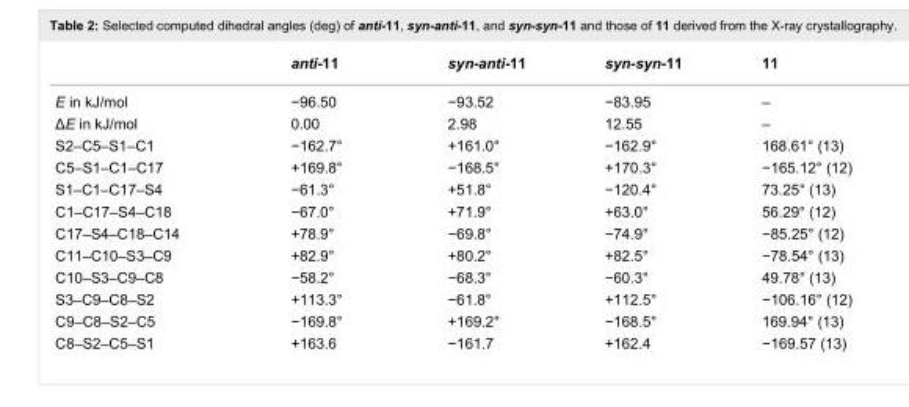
<table><thead><tr><td></td><td>anti-11</td><td>syn-anti-11</td><td>syn-syn-11</td><td>11</td></tr></thead><tbody><tr><td>E in kJ/mol</td><td>−96.50</td><td>−93.52</td><td>−83.95</td><td>–</td></tr><tr><td>ΔE in kJ/mol</td><td>0.00</td><td>2.98</td><td>12.55</td><td>–</td></tr><tr><td>S2–C5–S1–C1</td><td>−162.7°</td><td>+161.0°</td><td>−162.9°</td><td>168.61° (13)</td></tr><tr><td>C5–S1–C1–C17</td><td>+169.8°</td><td>−168.5°</td><td>+170.3°</td><td>−165.12° (12)</td></tr><tr><td>S1–C1–C17–S4</td><td>−61.3°</td><td>+51.8°</td><td>−120.4°</td><td>73.25° (13)</td></tr><tr><td>C1–C17–S4–C18</td><td>−67.0°</td><td>+71.9°</td><td>+63.0°</td><td>56.29° (12)</td></tr><tr><td>C17–S4–C18–C14</td><td>+78.9°</td><td>−69.8°</td><td>−74.9°</td><td>−85.25° (12)</td></tr><tr><td>C11–C10–S3–C9</td><td>+82.9°</td><td>+80.2°</td><td>+82.5°</td><td>−78.54° (13)</td></tr><tr><td>C10–S3–C9–C8</td><td>−58.2°</td><td>−68.3°</td><td>−60.3°</td><td>49.78° (13)</td></tr><tr><td>S3–C9–C8–S2</td><td>+113.3°</td><td>−61.8°</td><td>+112.5°</td><td>−106.16° (12)</td></tr><tr><td>C9–C8–S2–C5</td><td>−169.8°</td><td>+169.2°</td><td>−168.5°</td><td>169.94° (13)</td></tr><tr><td>C8–S2–C5–S1</td><td>+163.6</td><td>−161.7</td><td>+162.4</td><td>−169.57 (13)</td></tr></tbody></table>